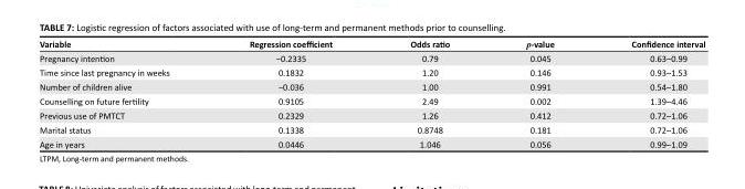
<table><thead><tr><td>Variable</td><td>Regression coefficient</td><td>Odds ratio</td><td>p-value</td><td>Confidence interval</td></tr></thead><tbody><tr><td>Pregnancy intention</td><td>−0.2335</td><td>0.79</td><td>0.045</td><td>0.63–0.99</td></tr><tr><td>Time since last pregnancy in weeks</td><td>0.1832</td><td>1.20</td><td>0.146</td><td>0.93–1.53</td></tr><tr><td>Number of children alive</td><td>−0.036</td><td>1.00</td><td>0.991</td><td>0.54–1.80</td></tr><tr><td>Counselling on future fertility</td><td>0.9105</td><td>2.49</td><td>0.002</td><td>1.39–4.46</td></tr><tr><td>Previous use of PMTCT</td><td>0.2329</td><td>1.26</td><td>0.412</td><td>0.72–1.06</td></tr><tr><td>Marital status</td><td>0.1338</td><td>0.8748</td><td>0.181</td><td>0.72–1.06</td></tr><tr><td>Age in years</td><td>0.0446</td><td>1.046</td><td>0.056</td><td>0.99–1.09</td></tr></tbody></table>